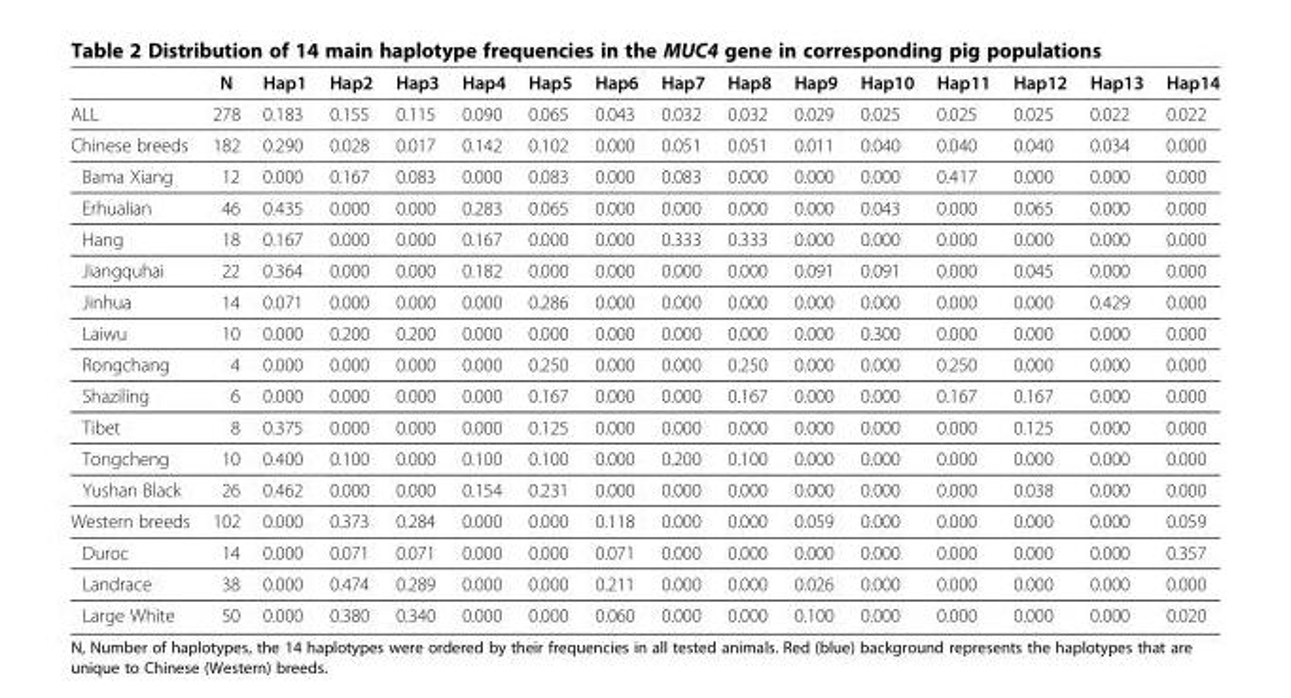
<table><thead><tr><td></td><td>N</td><td>Hap1</td><td>Hap2</td><td>Hap3</td><td>Hap4</td><td>Hap5</td><td>Hap6</td><td>Hap7</td><td>Hap8</td><td>Hap9</td><td>Hap10</td><td>Hap11</td><td>Hap12</td><td>Hap13</td><td>Hap14</td></tr></thead><tbody><tr><td>ALL</td><td>278</td><td>0.183</td><td>0.155</td><td>0.115</td><td>0.090</td><td>0.065</td><td>0.043</td><td>0.032</td><td>0.032</td><td>0.029</td><td>0.025</td><td>0.025</td><td>0.025</td><td>0.022</td><td>0.022</td></tr><tr><td>Chinese breeds</td><td>182</td><td>0.290</td><td>0.028</td><td>0.017</td><td>0.142</td><td>0.102</td><td>0.000</td><td>0.051</td><td>0.051</td><td>0.011</td><td>0.040</td><td>0.040</td><td>0.040</td><td>0.034</td><td>0.000</td></tr><tr><td>Bama Xiang</td><td>12</td><td>0.000</td><td>0.167</td><td>0.083</td><td>0.000</td><td>0.083</td><td>0.000</td><td>0.083</td><td>0.000</td><td>0.000</td><td>0.000</td><td>0.417</td><td>0.000</td><td>0.000</td><td>0.000</td></tr><tr><td>Erhualian</td><td>46</td><td>0.435</td><td>0.000</td><td>0.000</td><td>0.283</td><td>0.065</td><td>0.000</td><td>0.000</td><td>0.000</td><td>0.000</td><td>0.043</td><td>0.000</td><td>0.065</td><td>0.000</td><td>0.000</td></tr><tr><td>Hang</td><td>18</td><td>0.167</td><td>0.000</td><td>0.000</td><td>0.167</td><td>0.000</td><td>0.000</td><td>0.333</td><td>0.333</td><td>0.000</td><td>0.000</td><td>0.000</td><td>0.000</td><td>0.000</td><td>0.000</td></tr><tr><td>Jiangquhai</td><td>22</td><td>0.364</td><td>0.000</td><td>0.000</td><td>0.182</td><td>0.000</td><td>0.000</td><td>0.000</td><td>0.000</td><td>0.091</td><td>0.091</td><td>0.000</td><td>0.045</td><td>0.000</td><td>0.000</td></tr><tr><td>Jinhua</td><td>14</td><td>0.071</td><td>0.000</td><td>0.000</td><td>0.000</td><td>0.286</td><td>0.000</td><td>0.000</td><td>0.000</td><td>0.000</td><td>0.000</td><td>0.000</td><td>0.000</td><td>0.429</td><td>0.000</td></tr><tr><td>Laiwu</td><td>10</td><td>0.000</td><td>0.200</td><td>0.200</td><td>0.000</td><td>0.000</td><td>0.000</td><td>0.000</td><td>0.000</td><td>0.000</td><td>0.300</td><td>0.000</td><td>0.000</td><td>0.000</td><td>0.000</td></tr><tr><td>Rongchang</td><td>4</td><td>0.000</td><td>0.000</td><td>0.000</td><td>0.000</td><td>0.250</td><td>0.000</td><td>0.000</td><td>0.250</td><td>0.000</td><td>0.000</td><td>0.250</td><td>0.000</td><td>0.000</td><td>0.000</td></tr><tr><td>Shaziling</td><td>6</td><td>0.000</td><td>0.000</td><td>0.000</td><td>0.000</td><td>0.167</td><td>0.000</td><td>0.000</td><td>0.167</td><td>0.000</td><td>0.000</td><td>0.167</td><td>0.167</td><td>0.000</td><td>0.000</td></tr><tr><td>Tibet</td><td>8</td><td>0.375</td><td>0.000</td><td>0.000</td><td>0.000</td><td>0.125</td><td>0.000</td><td>0.000</td><td>0.000</td><td>0.000</td><td>0.000</td><td>0.000</td><td>0.125</td><td>0.000</td><td>0.000</td></tr><tr><td>Tongcheng</td><td>10</td><td>0.400</td><td>0.100</td><td>0.000</td><td>0.100</td><td>0.100</td><td>0.000</td><td>0.200</td><td>0.100</td><td>0.000</td><td>0.000</td><td>0.000</td><td>0.000</td><td>0.000</td><td>0.000</td></tr><tr><td>Yushan Black</td><td>26</td><td>0.462</td><td>0.000</td><td>0.000</td><td>0.154</td><td>0.231</td><td>0.000</td><td>0.000</td><td>0.000</td><td>0.000</td><td>0.000</td><td>0.000</td><td>0.038</td><td>0.000</td><td>0.000</td></tr><tr><td>Western breeds</td><td>102</td><td>0.000</td><td>0.373</td><td>0.284</td><td>0.000</td><td>0.000</td><td>0.118</td><td>0.000</td><td>0.000</td><td>0.059</td><td>0.000</td><td>0.000</td><td>0.000</td><td>0.000</td><td>0.059</td></tr><tr><td>Duroc</td><td>14</td><td>0.000</td><td>0.071</td><td>0.071</td><td>0.000</td><td>0.000</td><td>0.071</td><td>0.000</td><td>0.000</td><td>0.000</td><td>0.000</td><td>0.000</td><td>0.000</td><td>0.000</td><td>0.357</td></tr><tr><td>Landrace</td><td>38</td><td>0.000</td><td>0.474</td><td>0.289</td><td>0.000</td><td>0.000</td><td>0.211</td><td>0.000</td><td>0.000</td><td>0.026</td><td>0.000</td><td>0.000</td><td>0.000</td><td>0.000</td><td>0.000</td></tr><tr><td>Large White</td><td>50</td><td>0.000</td><td>0.380</td><td>0.340</td><td>0.000</td><td>0.000</td><td>0.060</td><td>0.000</td><td>0.000</td><td>0.100</td><td>0.000</td><td>0.000</td><td>0.000</td><td>0.000</td><td>0.020</td></tr></tbody></table>